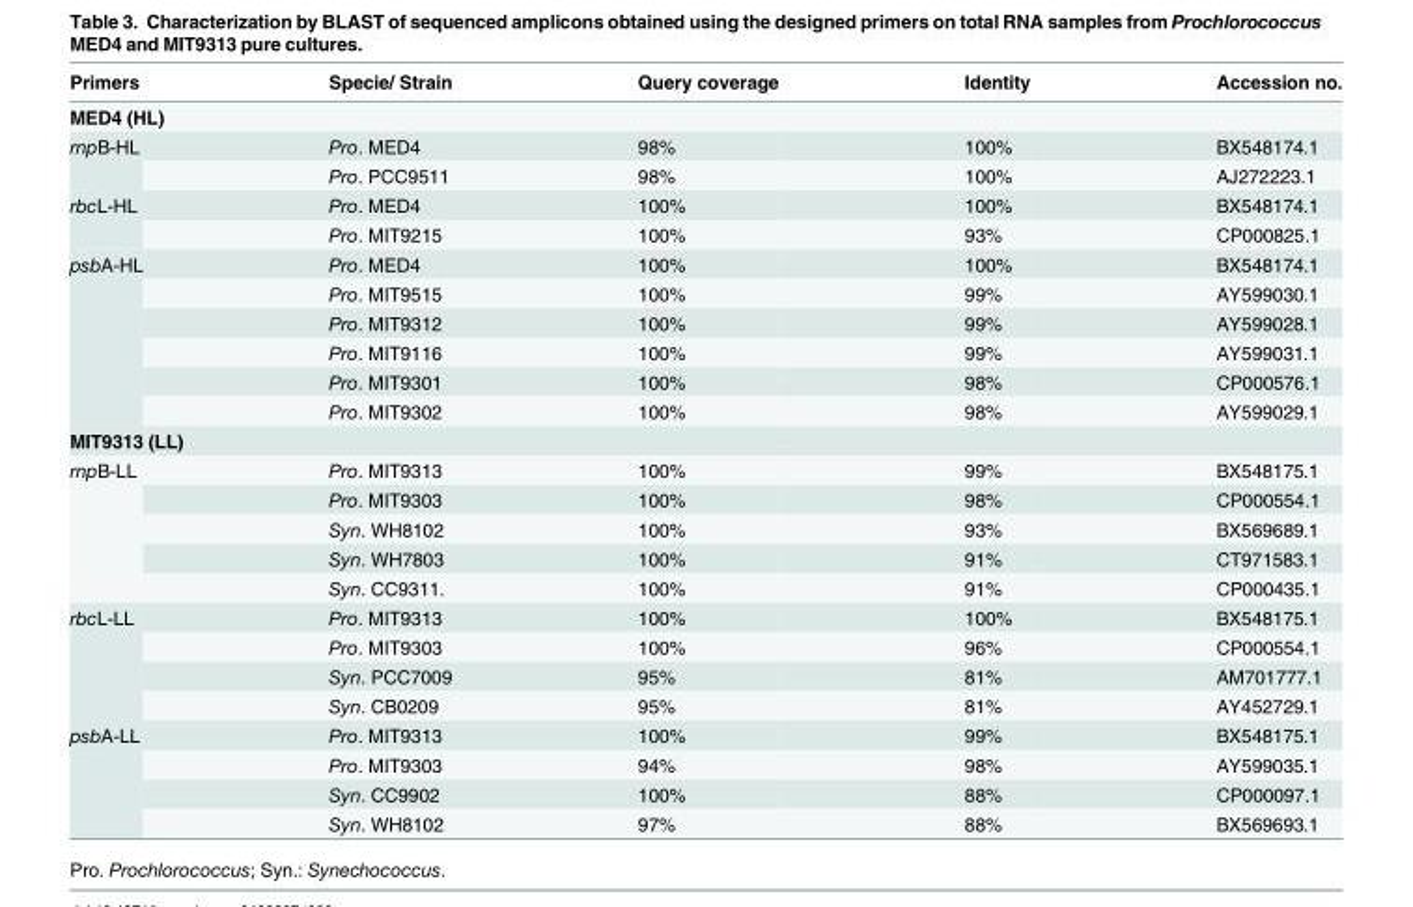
<table><thead><tr><td>Primers</td><td>Specie/ Strain</td><td>Query coverage</td><td>Identity</td><td>Accession no.</td></tr></thead><tbody><tr><td colspan="5">MED4 (HL)</td></tr><tr><td rowspan="2">rnpB-HL</td><td>Pro. MED4</td><td>98%</td><td>100%</td><td>BX548174.1</td></tr><tr><td>Pro. PCC9511</td><td>98%</td><td>100%</td><td>AJ272223.1</td></tr><tr><td rowspan="2">rbcL-HL</td><td>Pro. MED4</td><td>100%</td><td>100%</td><td>BX548174.1</td></tr><tr><td>Pro. MIT9215</td><td>100%</td><td>93%</td><td>CP000825.1</td></tr><tr><td rowspan="6">psbA-HL</td><td>Pro. MED4</td><td>100%</td><td>100%</td><td>BX548174.1</td></tr><tr><td>Pro. MIT9515</td><td>100%</td><td>99%</td><td>AY599030.1</td></tr><tr><td>Pro. MIT9312</td><td>100%</td><td>99%</td><td>AY599028.1</td></tr><tr><td>Pro. MIT9116</td><td>100%</td><td>99%</td><td>AY599031.1</td></tr><tr><td>Pro. MIT9301</td><td>100%</td><td>98%</td><td>CP000576.1</td></tr><tr><td>Pro. MIT9302</td><td>100%</td><td>98%</td><td>AY599029.1</td></tr><tr><td colspan="5">MIT9313 (LL)</td></tr><tr><td rowspan="5">rnpB-LL</td><td>Pro. MIT9313</td><td>100%</td><td>99%</td><td>BX548175.1</td></tr><tr><td>Pro. MIT9303</td><td>100%</td><td>98%</td><td>CP000554.1</td></tr><tr><td>Syn. WH8102</td><td>100%</td><td>93%</td><td>BX569689.1</td></tr><tr><td>Syn. WH7803</td><td>100%</td><td>91%</td><td>CT971583.1</td></tr><tr><td>Syn. CC9311.</td><td>100%</td><td>91%</td><td>CP000435.1</td></tr><tr><td rowspan="4">rbcL-LL</td><td>Pro. MIT9313</td><td>100%</td><td>100%</td><td>BX548175.1</td></tr><tr><td>Pro. MIT9303</td><td>100%</td><td>96%</td><td>CP000554.1</td></tr><tr><td>Syn. PCC7009</td><td>95%</td><td>81%</td><td>AM701777.1</td></tr><tr><td>Syn. CB0209</td><td>95%</td><td>81%</td><td>AY452729.1</td></tr><tr><td rowspan="4">psbA-LL</td><td>Pro. MIT9313</td><td>100%</td><td>99%</td><td>BX548175.1</td></tr><tr><td>Pro. MIT9303</td><td>94%</td><td>98%</td><td>AY599035.1</td></tr><tr><td>Syn. CC9902</td><td>100%</td><td>88%</td><td>CP000097.1</td></tr><tr><td>Syn. WH8102</td><td>97%</td><td>88%</td><td>BX569693.1</td></tr></tbody></table>